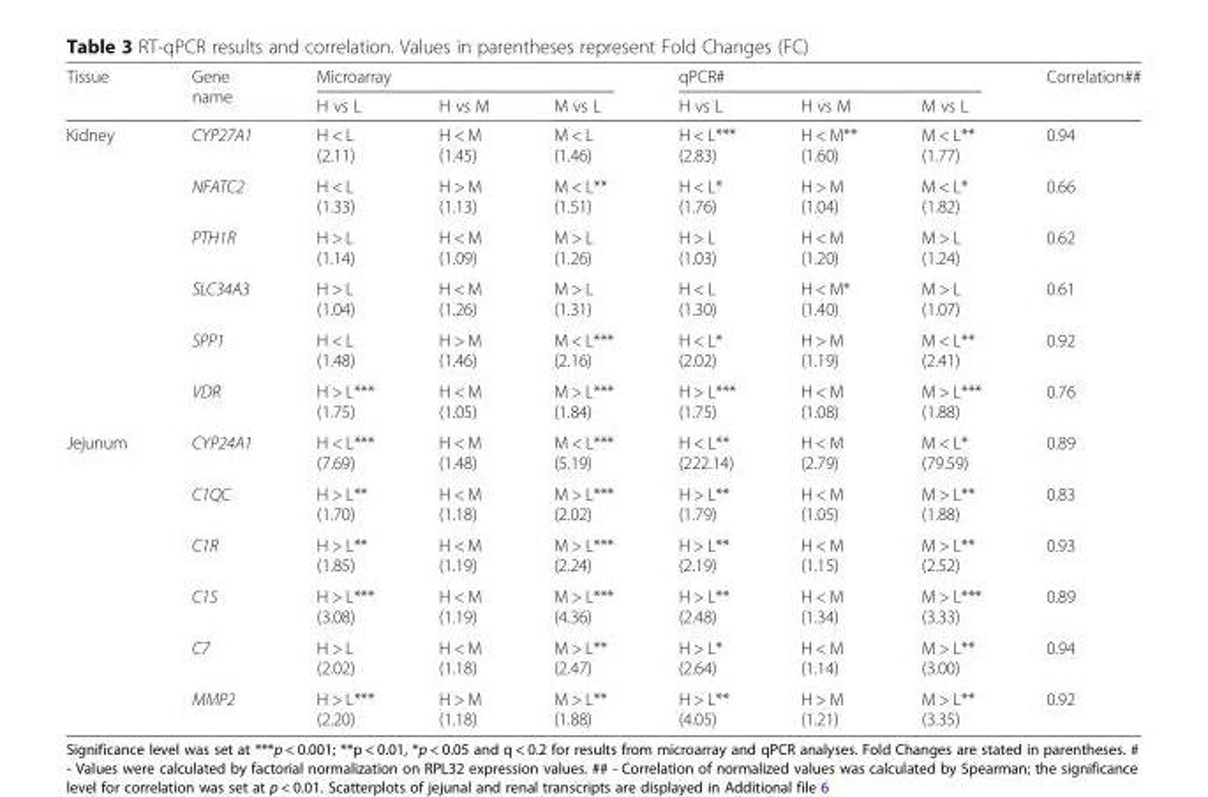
<table><thead><tr><td rowspan="2">Tissue</td><td rowspan="2">Gene name</td><td colspan="3">Microarray</td><td colspan="3">qPCR#</td><td rowspan="2">Correlation##</td></tr><tr><td>H vs L</td><td>H vs M</td><td>M vs L</td><td>H vs L</td><td>H vs M</td><td>M vs L</td></tr></thead><tbody><tr><td rowspan="6">Kidney</td><td>CYP27A1</td><td>H &lt; L (2.11)</td><td>H &lt; M (1.45)</td><td>M &lt; L (1.46)</td><td>H &lt; L*** (2.83)</td><td>H &lt; M** (1.60)</td><td>M &lt; L** (1.77)</td><td>0.94</td></tr><tr><td>NFATC2</td><td>H &lt; L (1.33)</td><td>H &gt; M (1.13)</td><td>M &lt; L** (1.51)</td><td>H &lt; L* (1.76)</td><td>H &gt; M (1.04)</td><td>M &lt; L* (1.82)</td><td>0.66</td></tr><tr><td>PTH1R</td><td>H &gt; L (1.14)</td><td>H &lt; M (1.09)</td><td>M &gt; L (1.26)</td><td>H &gt; L (1.03)</td><td>H &lt; M (1.20)</td><td>M &gt; L (1.24)</td><td>0.62</td></tr><tr><td>SLC34A3</td><td>H &gt; L (1.04)</td><td>H &lt; M (1.26)</td><td>M &gt; L (1.31)</td><td>H &lt; L (1.30)</td><td>H &lt; M* (1.40)</td><td>M &gt; L (1.07)</td><td>0.61</td></tr><tr><td>SPP1</td><td>H &lt; L (1.48)</td><td>H &gt; M (1.46)</td><td>M &lt; L*** (2.16)</td><td>H &lt; L* (2.02)</td><td>H &gt; M (1.19)</td><td>M &lt; L** (2.41)</td><td>0.92</td></tr><tr><td>VDR</td><td>H &gt; L*** (1.75)</td><td>H &lt; M (1.05)</td><td>M &gt; L*** (1.84)</td><td>H &gt; L*** (1.75)</td><td>H &lt; M (1.08)</td><td>M &gt; L*** (1.88)</td><td>0.76</td></tr><tr><td rowspan="6">Jejunum</td><td>CYP24A1</td><td>H &lt; L*** (7.69)</td><td>H &lt; M (1.48)</td><td>M &lt; L*** (5.19)</td><td>H &lt; L** (222.14)</td><td>H &lt; M (2.79)</td><td>M &lt; L* (79.59)</td><td>0.89</td></tr><tr><td>C1QC</td><td>H &gt; L** (1.70)</td><td>H &lt; M (1.18)</td><td>M &gt; L*** (2.02)</td><td>H &gt; L** (1.79)</td><td>H &lt; M (1.05)</td><td>M &gt; L** (1.88)</td><td>0.83</td></tr><tr><td>C1R</td><td>H &gt; L** (1.85)</td><td>H &lt; M (1.19)</td><td>M &gt; L*** (2.24)</td><td>H &gt; L** (2.19)</td><td>H &lt; M (1.15)</td><td>M &gt; L** (2.52)</td><td>0.93</td></tr><tr><td>C1S</td><td>H &gt; L*** (3.08)</td><td>H &lt; M (1.19)</td><td>M &gt; L*** (4.36)</td><td>H &gt; L** (2.48)</td><td>H &lt; M (1.34)</td><td>M &gt; L*** (3.33)</td><td>0.89</td></tr><tr><td>C7</td><td>H &gt; L (2.02)</td><td>H &lt; M (1.18)</td><td>M &gt; L** (2.47)</td><td>H &gt; L* (2.64)</td><td>H &lt; M (1.14)</td><td>M &gt; L** (3.00)</td><td>0.94</td></tr><tr><td>MMP2</td><td>H &gt; L*** (2.20)</td><td>H &gt; M (1.18)</td><td>M &gt; L** (1.88)</td><td>H &gt; L** (4.05)</td><td>H &gt; M (1.21)</td><td>M &gt; L** (3.35)</td><td>0.92</td></tr></tbody></table>